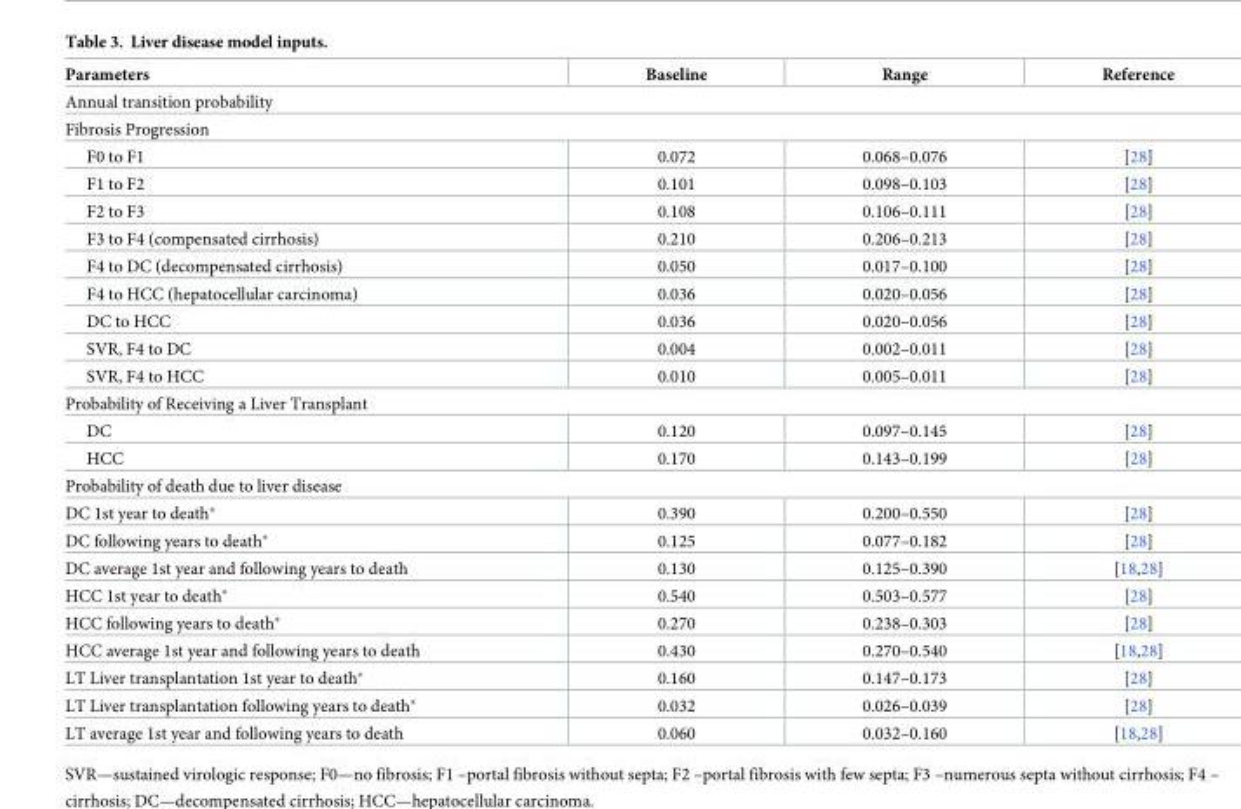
<table><thead><tr><td>Parameters</td><td>Baseline</td><td>Range</td><td>Reference</td></tr></thead><tbody><tr><td colspan="4">Annual transition probability</td></tr><tr><td colspan="4">Fibrosis Progression</td></tr><tr><td>F0 to F1</td><td>0.072</td><td>0.068–0.076</td><td>[28]</td></tr><tr><td>F1 to F2</td><td>0.101</td><td>0.098–0.103</td><td>[28]</td></tr><tr><td>F2 to F3</td><td>0.108</td><td>0.106–0.111</td><td>[28]</td></tr><tr><td>F3 to F4 (compensated cirrhosis)</td><td>0.210</td><td>0.206–0.213</td><td>[28]</td></tr><tr><td>F4 to DC (decompensated cirrhosis)</td><td>0.050</td><td>0.017–0.100</td><td>[28]</td></tr><tr><td>F4 to HCC (hepatocellular carcinoma)</td><td>0.036</td><td>0.020–0.056</td><td>[28]</td></tr><tr><td>DC to HCC</td><td>0.036</td><td>0.020–0.056</td><td>[28]</td></tr><tr><td>SVR, F4 to DC</td><td>0.004</td><td>0.002–0.011</td><td>[28]</td></tr><tr><td>SVR, F4 to HCC</td><td>0.010</td><td>0.005–0.011</td><td>[28]</td></tr><tr><td colspan="4">Probability of Receiving a Liver Transplant</td></tr><tr><td>DC</td><td>0.120</td><td>0.097–0.145</td><td>[28]</td></tr><tr><td>HCC</td><td>0.170</td><td>0.143–0.199</td><td>[28]</td></tr><tr><td colspan="4">Probability of death due to liver disease</td></tr><tr><td>DC 1st year to death*</td><td>0.390</td><td>0.200–0.550</td><td>[28]</td></tr><tr><td>DC following years to death*</td><td>0.125</td><td>0.077–0.182</td><td>[28]</td></tr><tr><td>DC average 1st year and following years to death</td><td>0.130</td><td>0.125–0.390</td><td>[18,28]</td></tr><tr><td>HCC 1st year to death*</td><td>0.540</td><td>0.503–0.577</td><td>[28]</td></tr><tr><td>HCC following years to death*</td><td>0.270</td><td>0.238–0.303</td><td>[28]</td></tr><tr><td>HCC average 1st year and following years to death</td><td>0.430</td><td>0.270–0.540</td><td>[18,28]</td></tr><tr><td>LT Liver transplantation 1st year to death*</td><td>0.160</td><td>0.147–0.173</td><td>[28]</td></tr><tr><td>LT Liver transplantation following years to death*</td><td>0.032</td><td>0.026–0.039</td><td>[28]</td></tr><tr><td>LT average 1st year and following years to death</td><td>0.060</td><td>0.032–0.160</td><td>[18,28]</td></tr></tbody></table>